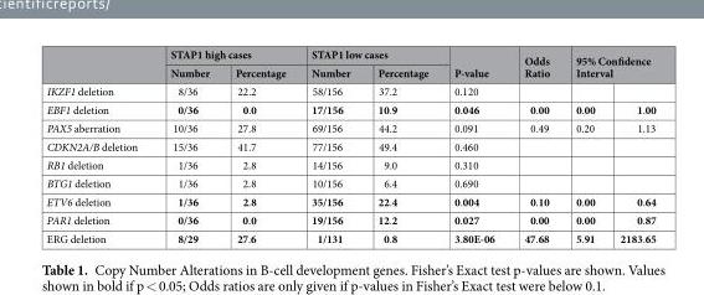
<table><thead><tr><td rowspan="3">IKZF1 deletion</td><td colspan="2">STAP1 high cases</td><td colspan="2">STAP1 low cases</td><td rowspan="3">P-value 0.120</td><td rowspan="3">Odds Ratio</td><td rowspan="2" colspan="2">95% Confidence Interval</td></tr><tr><td rowspan="2">Number 8/36</td><td rowspan="2">Percentage 22.2</td><td rowspan="2">Number 58/156</td><td rowspan="2">Percentage 37.2</td></tr><tr><td></td><td></td></tr></thead><tbody><tr><td>EBF1 deletion</td><td>0/36</td><td>0.0</td><td>17/156</td><td>10.9</td><td>0.046</td><td>0.00</td><td>0.00</td><td>1.00</td></tr><tr><td>PAX5 aberration</td><td>10/36</td><td>27.8</td><td>69/156</td><td>44.2</td><td>0.091</td><td>0.49</td><td>0.20</td><td>1.13</td></tr><tr><td>CDKN2A/B deletion</td><td>15/36</td><td>41.7</td><td>77/156</td><td>49.4</td><td>0.460</td><td></td><td></td><td></td></tr><tr><td>RB1 deletion</td><td>1/36</td><td>2.8</td><td>14/156</td><td>9.0</td><td>0.310</td><td></td><td></td><td></td></tr><tr><td>BTG1 deletion</td><td>1/36</td><td>2.8</td><td>10/156</td><td>6.4</td><td>0.690</td><td></td><td></td><td></td></tr><tr><td>ETV6 deletion</td><td>1/36</td><td>2.8</td><td>35/156</td><td>22.4</td><td>0.004</td><td>0.10</td><td>0.00</td><td>0.64</td></tr><tr><td>PAR1 deletion</td><td>0/36</td><td>0.0</td><td>19/156</td><td>12.2</td><td>0.027</td><td>0.00</td><td>0.00</td><td>0.87</td></tr><tr><td>ERG deletion</td><td>8/29</td><td>27.6</td><td>1/131</td><td>0.8</td><td>3.80E-06</td><td>47.68</td><td>5.91</td><td>2183.65</td></tr></tbody></table>